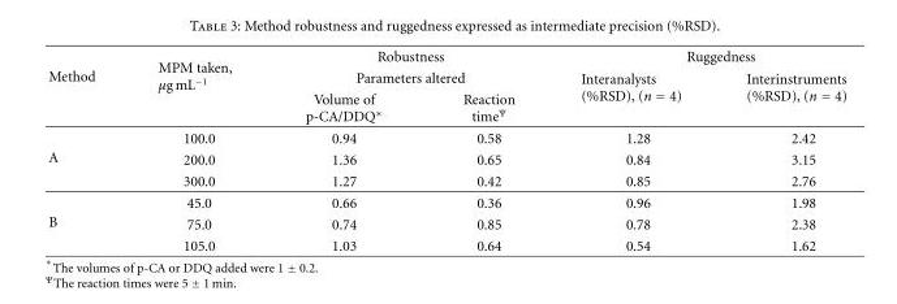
<table><thead><tr><td rowspan="3">Method</td><td rowspan="3">MPM taken, μg mL<sup>−1</sup></td><td rowspan="2" colspan="2">Robustness Parameters altered</td><td colspan="2">Ruggedness</td></tr><tr><td rowspan="2">Interanalysts (%RSD), (n = 4)</td><td rowspan="2">Interinstruments (%RSD), (n = 4)</td></tr><tr><td>Volume of p-CA/DDQ∗</td><td>Reaction time<sup>Ψ</sup></td></tr></thead><tbody><tr><td rowspan="3">A</td><td>100.0</td><td>0.94</td><td>0.58</td><td>1.28</td><td>2.42</td></tr><tr><td>200.0</td><td>1.36</td><td>0.65</td><td>0.84</td><td>3.15</td></tr><tr><td>300.0</td><td>1.27</td><td>0.42</td><td>0.85</td><td>2.76</td></tr><tr><td rowspan="3">B</td><td>45.0</td><td>0.66</td><td>0.36</td><td>0.96</td><td>1.98</td></tr><tr><td>75.0</td><td>0.74</td><td>0.85</td><td>0.78</td><td>2.38</td></tr><tr><td>105.0</td><td>1.03</td><td>0.64</td><td>0.54</td><td>1.62</td></tr></tbody></table>